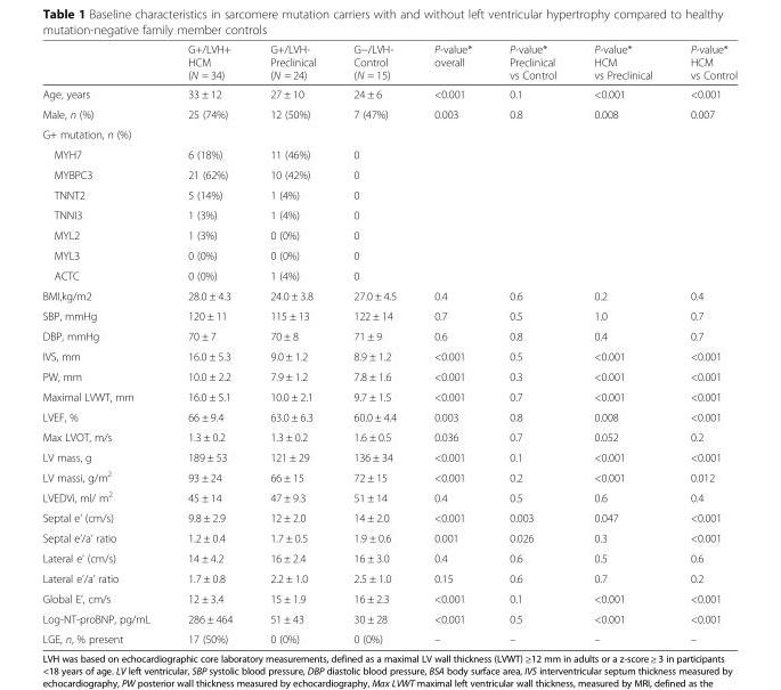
<table><thead><tr><td></td><td>G+/LVH+ HCM (N = 34)</td><td>G+/LVH- Preclinical (N = 24)</td><td>G−/LVH- Control (N = 15)</td><td>P-value* overall</td><td>P-value* Preclinical vs Control</td><td>P-value* HCM vs Preclinical</td><td>P-value* HCM vs Control</td></tr></thead><tbody><tr><td>Age, years</td><td>33 ± 12</td><td>27 ± 10</td><td>24 ± 6</td><td>&lt;0.001</td><td>0.1</td><td>&lt;0.001</td><td>&lt;0.001</td></tr><tr><td>Male, n (%)</td><td>25 (74%)</td><td>12 (50%)</td><td>7 (47%)</td><td>0.003</td><td>0.8</td><td>0.008</td><td>0.007</td></tr><tr><td colspan="8">G+ mutation, n (%)</td></tr><tr><td>MYH7</td><td>6 (18%)</td><td>11 (46%)</td><td>0</td><td></td><td></td><td></td><td></td></tr><tr><td>MYBPC3</td><td>21 (62%)</td><td>10 (42%)</td><td>0</td><td></td><td></td><td></td><td></td></tr><tr><td>TNNT2</td><td>5 (14%)</td><td>1 (4%)</td><td>0</td><td></td><td></td><td></td><td></td></tr><tr><td>TNNI3</td><td>1 (3%)</td><td>1 (4%)</td><td>0</td><td></td><td></td><td></td><td></td></tr><tr><td>MYL2</td><td>1 (3%)</td><td>0 (0%)</td><td>0</td><td></td><td></td><td></td><td></td></tr><tr><td>MYL3</td><td>0 (0%)</td><td>0 (0%)</td><td>0</td><td></td><td></td><td></td><td></td></tr><tr><td>ACTC</td><td>0 (0%)</td><td>1 (4%)</td><td>0</td><td></td><td></td><td></td><td></td></tr><tr><td>BMI,kg/m2</td><td>28.0 ± 4.3</td><td>24.0 ± 3.8</td><td>27.0 ± 4.5</td><td>0.4</td><td>0.6</td><td>0.2</td><td>0.4</td></tr><tr><td>SBP, mmHg</td><td>120 ± 11</td><td>115 ± 13</td><td>122 ± 14</td><td>0.7</td><td>0.5</td><td>1.0</td><td>0.7</td></tr><tr><td>DBP, mmHg</td><td>70 ± 7</td><td>70 ± 8</td><td>71 ± 9</td><td>0.6</td><td>0.8</td><td>0.4</td><td>0.7</td></tr><tr><td>IVS, mm</td><td>16.0 ± 5.3</td><td>9.0 ± 1.2</td><td>8.9 ± 1.2</td><td>&lt;0.001</td><td>0.5</td><td>&lt;0.001</td><td>&lt;0.001</td></tr><tr><td>PW, mm</td><td>10.0 ± 2.2</td><td>7.9 ± 1.2</td><td>7.8 ± 1.6</td><td>&lt;0.001</td><td>0.3</td><td>&lt;0.001</td><td>&lt;0.001</td></tr><tr><td>Maximal LVWT, mm</td><td>16.0 ± 5.1</td><td>10.0 ± 2.1</td><td>9.7 ± 1.5</td><td>&lt;0.001</td><td>0.7</td><td>&lt;0.001</td><td>&lt;0.001</td></tr><tr><td>LVEF, %</td><td>66 ± 9.4</td><td>63.0 ± 6.3</td><td>60.0 ± 4.4</td><td>0.003</td><td>0.8</td><td>0.008</td><td>&lt;0.001</td></tr><tr><td>Max LVOT, m/s</td><td>1.3 ± 0.2</td><td>1.3 ± 0.2</td><td>1.6 ± 0.5</td><td>0.036</td><td>0.7</td><td>0.052</td><td>0.2</td></tr><tr><td>LV mass, g</td><td>189 ± 53</td><td>121 ± 29</td><td>136 ± 34</td><td>&lt;0.001</td><td>0.1</td><td>&lt;0.001</td><td>&lt;0.001</td></tr><tr><td>LV massi, g/m<sup>2</sup></td><td>93 ± 24</td><td>66 ± 15</td><td>72 ± 15</td><td>&lt;0.001</td><td>0.2</td><td>&lt;0.001</td><td>0.012</td></tr><tr><td>LVEDVi, ml/ m<sup>2</sup></td><td>45 ± 14</td><td>47 ± 9.3</td><td>51 ± 14</td><td>0.4</td><td>0.5</td><td>0.6</td><td>0.4</td></tr><tr><td>Septal e’ (cm/s)</td><td>9.8 ± 2.9</td><td>12 ± 2.0</td><td>14 ± 2.0</td><td>&lt;0.001</td><td>0.003</td><td>0.047</td><td>&lt;0.001</td></tr><tr><td>Septal e’/a’ ratio</td><td>1.2 ± 0.4</td><td>1.7 ± 0.5</td><td>1.9 ± 0.6</td><td>0.001</td><td>0.026</td><td>0.3</td><td>&lt;0.001</td></tr><tr><td>Lateral e’ (cm/s)</td><td>14 ± 4.2</td><td>16 ± 2.4</td><td>16 ± 3.0</td><td>0.4</td><td>0.6</td><td>0.5</td><td>0.6</td></tr><tr><td>Lateral e’/a’ ratio</td><td>1.7 ± 0.8</td><td>2.2 ± 1.0</td><td>2.5 ± 1.0</td><td>0.15</td><td>0.6</td><td>0.7</td><td>0.2</td></tr><tr><td>Global E’, cm/s</td><td>12 ± 3.4</td><td>15 ± 1.9</td><td>16 ± 2.3</td><td>&lt;0.001</td><td>0.1</td><td>&lt;0.001</td><td>&lt;0.001</td></tr><tr><td>Log-NT-proBNP, pg/mL</td><td>286 ± 464</td><td>51 ± 43</td><td>30 ± 28</td><td>&lt;0.001</td><td>0.5</td><td>&lt;0.001</td><td>&lt;0.001</td></tr><tr><td>LGE, n, % present</td><td>17 (50%)</td><td>0 (0%)</td><td>0 (0%)</td><td>–</td><td>–</td><td>–</td><td>–</td></tr></tbody></table>